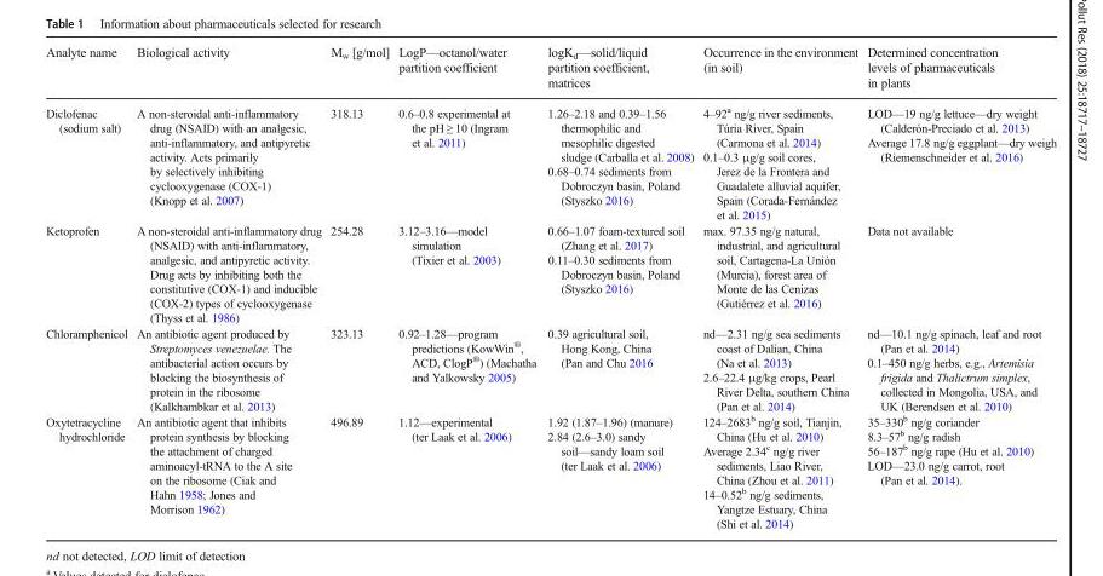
<table><thead><tr><td>Analyte name</td><td>Biological activity</td><td>M<sub>w</sub> [g/mol]</td><td>LogP—octanol/water partition coefficient</td><td>logK<sub>d</sub>—solid/liquid partition coefficient, matrices</td><td>Occurrence in the environment (in soil)</td><td>Determined concentration levels of pharmaceuticals in plants</td></tr></thead><tbody><tr><td>Diclofenac (sodium salt)</td><td>A non-steroidal anti-inflammatory drug (NSAID) with an analgesic, anti-inflammatory, and antipyretic activity. Acts primarily by selectively inhibiting cyclooxygenase (COX-1) (Knopp et al. 2007)</td><td>318.13</td><td>0.6–0.8 experimental at the pH ≥ 10 (Ingram et al. 2011)</td><td>1.26–2.18 and 0.39–1.56 thermophilic and mesophilic digested sludge (Carballa et al. 2008) 0.68–0.74 sediments from Dobroczyn basin, Poland (Styszko 2016)</td><td>4–92<sup>a</sup> ng/g river sediments, Túria River, Spain (Carmona et al. 2014) 0.1–0.3 μg/g soil cores, Jerez de la Frontera and Guadalete alluvial aquifer, Spain (Corada-Fernández et al. 2015)</td><td>LOD—19 ng/g lettuce—dry weight (Calderón-Preciado et al. 2013) Average 17.8 ng/g eggplant—dry weigh (Riemenschneider et al. 2016)</td></tr><tr><td>Ketoprofen</td><td>A non-steroidal anti-inflammatory drug (NSAID) with anti-inflammatory, analgesic, and antipyretic activity. Drug acts by inhibiting both the constitutive (COX-1) and inducible (COX-2) types of cyclooxygenase (Thyss et al. 1986)</td><td>254.28</td><td>3.12–3.16—model simulation (Tixier et al. 2003)</td><td>0.66–1.07 foam-textured soil (Zhang et al. 2017) 0.11–0.30 sediments from Dobroczyn basin, Poland (Styszko 2016)</td><td>max. 97.35 ng/g natural, industrial, and agricultural soil, Cartagena-La Unión (Murcia), forest area of Monte de las Cenizas (Gutiérrez et al. 2016)</td><td>Data not available</td></tr><tr><td>Chloramphenicol</td><td>An antibiotic agent produced by Streptomyces venezuelae. The antibacterial action occurs by blocking the biosynthesis of protein in the ribosome (Kalkhambkar et al. 2013)</td><td>323.13</td><td>0.92–1.28—program predictions (KowWin<sup>®</sup>, ACD, ClogP<sup>®</sup>) (Machatha and Yalkowsky 2005)</td><td>0.39 agricultural soil, Hong Kong, China (Pan and Chu 2016</td><td>nd—2.31 ng/g sea sediments coast of Dalian, China (Na et al. 2013) 2.6–22.4 μg/kg crops, Pearl River Delta, southern China (Pan et al. 2014)</td><td>nd—10.1 ng/g spinach, leaf and root (Pan et al. 2014) 0.1–450 ng/g herbs, e.g., Artemisia frigida and Thalictrum simplex, collected in Mongolia, USA, and UK (Berendsen et al. 2010)</td></tr><tr><td>Oxytetracycline hydrochloride</td><td>An antibiotic agent that inhibits protein synthesis by blocking the attachment of charged aminoacyl-tRNA to the A site on the ribosome (Ciak and Hahn 1958; Jones and Morrison 1962)</td><td>496.89</td><td>1.12—experimental (ter Laak et al. 2006)</td><td>1.92 (1.87–1.96) (manure) 2.84 (2.6–3.0) sandy soil—sandy loam soil (ter Laak et al. 2006)</td><td>124–2683<sup>b</sup> ng/g soil, Tianjin, China (Hu et al. 2010) Average 2.34<sup>c</sup> ng/g river sediments, Liao River, China (Zhou et al. 2011) 14–0.52<sup>b</sup> ng/g sediments, Yangtze Estuary, China (Shi et al. 2014)</td><td>35–330<sup>b</sup> ng/g coriander 8.3–57<sup>b</sup> ng/g radish 56–187<sup>b</sup> ng/g rape (Hu et al. 2010) LOD—23.0 ng/g carrot, root (Pan et al. 2014).</td></tr></tbody></table>